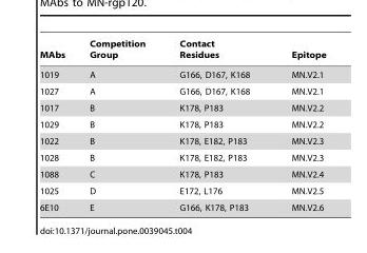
<table><thead><tr><td>MAbs</td><td>Competition Group</td><td>Contact Residues</td><td>Epitope</td></tr></thead><tbody><tr><td>1019</td><td>A</td><td>G166, D167, K168</td><td>MN.V2.1</td></tr><tr><td>1027</td><td>A</td><td>G166, D167, K168</td><td>MN.V2.1</td></tr><tr><td>1017</td><td>B</td><td>K178, P183</td><td>MN.V2.2</td></tr><tr><td>1029</td><td>B</td><td>K178, P183</td><td>MN.V2.2</td></tr><tr><td>1022</td><td>B</td><td>K178, E182, P183</td><td>MN.V2.3</td></tr><tr><td>1028</td><td>B</td><td>K178, E182, P183</td><td>MN.V2.3</td></tr><tr><td>1088</td><td>C</td><td>K178, P183</td><td>MN.V2.4</td></tr><tr><td>1025</td><td>D</td><td>E172, L176</td><td>MN.V2.5</td></tr><tr><td>6E10</td><td>E</td><td>G166, K178, P183</td><td>MN.V2.6</td></tr></tbody></table>